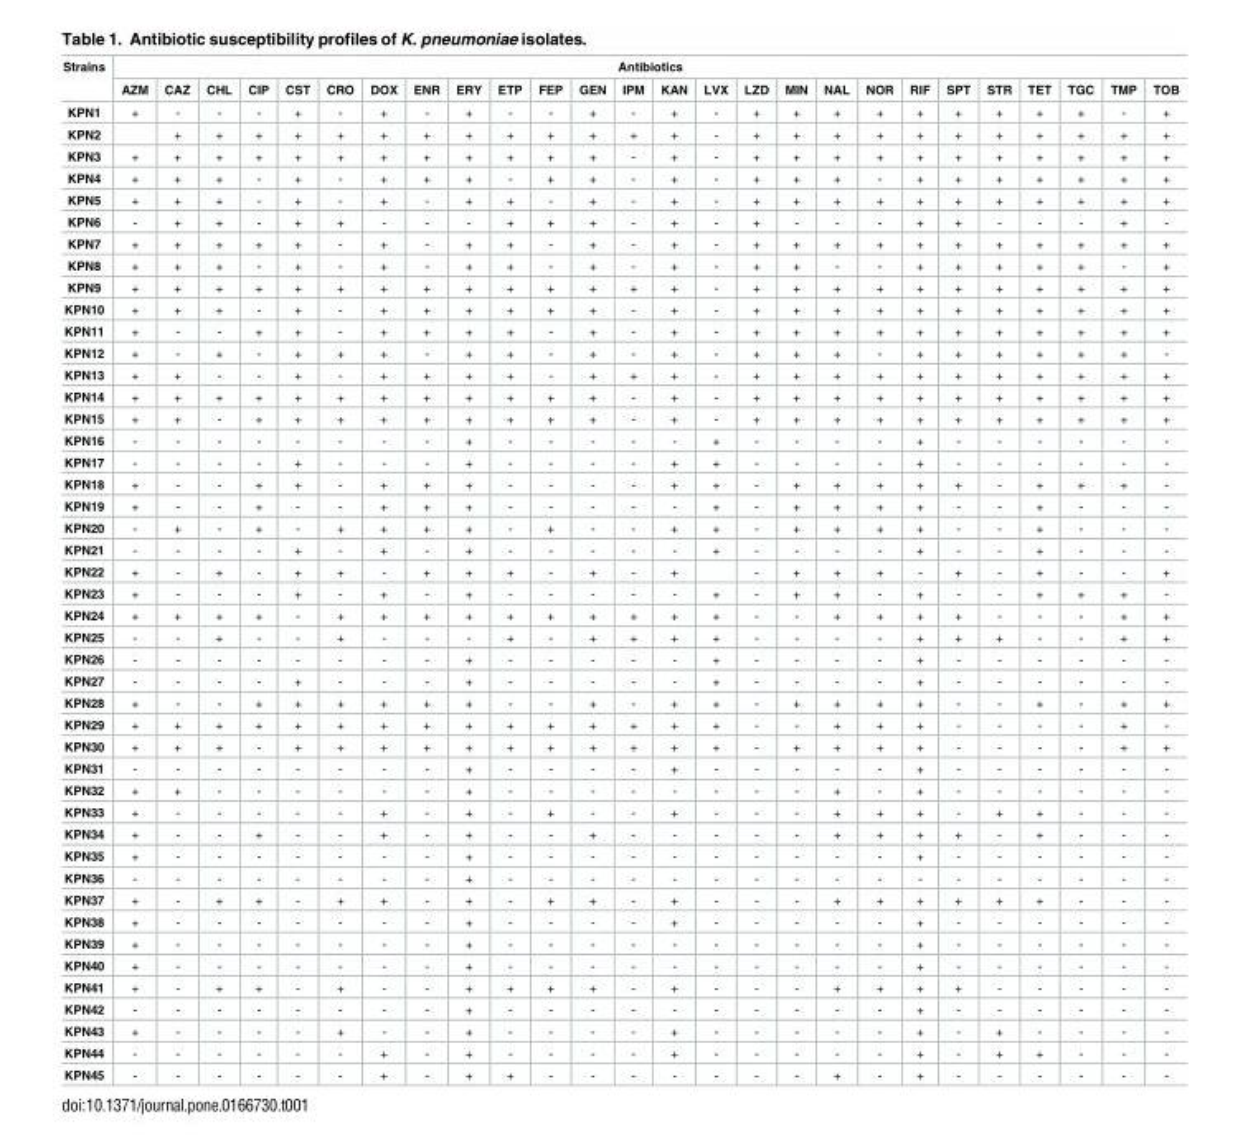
<table><thead><tr><td rowspan="2">Strains</td><td colspan="26">Antibiotics</td></tr><tr><td>AZM</td><td>CAZ</td><td>CHL</td><td>CIP</td><td>CST</td><td>CRO</td><td>DOX</td><td>ENR</td><td>ERY</td><td>ETP</td><td>FEP</td><td>GEN</td><td>IPM</td><td>KAN</td><td>LVX</td><td>LZD</td><td>MIN</td><td>NAL</td><td>NOR</td><td>RIF</td><td>SPT</td><td>STR</td><td>TET</td><td>TGC</td><td>TMP</td><td>TOB</td></tr></thead><tbody><tr><td>KPN1</td><td>+</td><td>-</td><td>-</td><td>-</td><td>+</td><td>-</td><td>+</td><td>-</td><td>+</td><td>-</td><td>-</td><td>+</td><td>-</td><td>+</td><td>-</td><td>+</td><td>+</td><td>+</td><td>+</td><td>+</td><td>+</td><td>+</td><td>+</td><td>+</td><td>-</td><td>+</td></tr><tr><td>KPN2</td><td></td><td>+</td><td>+</td><td>+</td><td>+</td><td>+</td><td>+</td><td>+</td><td>+</td><td>+</td><td>+</td><td>+</td><td>+</td><td>+</td><td>-</td><td>+</td><td>+</td><td>+</td><td>+</td><td>+</td><td>+</td><td>+</td><td>+</td><td>+</td><td>+</td><td>+</td></tr><tr><td>KPN3</td><td>+</td><td>+</td><td>+</td><td>+</td><td>+</td><td>+</td><td>+</td><td>+</td><td>+</td><td>+</td><td>+</td><td>+</td><td>-</td><td>+</td><td>-</td><td>+</td><td>+</td><td>+</td><td>+</td><td>+</td><td>+</td><td>+</td><td>+</td><td>+</td><td>+</td><td>+</td></tr><tr><td>KPN4</td><td>+</td><td>+</td><td>+</td><td>-</td><td>+</td><td>-</td><td>+</td><td>+</td><td>+</td><td>-</td><td>+</td><td>+</td><td>-</td><td>+</td><td>-</td><td>+</td><td>+</td><td>+</td><td>-</td><td>+</td><td>+</td><td>+</td><td>+</td><td>+</td><td>+</td><td>+</td></tr><tr><td>KPN5</td><td>+</td><td>+</td><td>+</td><td>-</td><td>+</td><td>-</td><td>+</td><td>-</td><td>+</td><td>+</td><td>-</td><td>+</td><td>-</td><td>+</td><td>-</td><td>+</td><td>+</td><td>+</td><td>+</td><td>+</td><td>+</td><td>+</td><td>+</td><td>+</td><td>+</td><td>+</td></tr><tr><td>KPN6</td><td>-</td><td>+</td><td>+</td><td>-</td><td>+</td><td>+</td><td>-</td><td>-</td><td>-</td><td>+</td><td>+</td><td>+</td><td>-</td><td>+</td><td>-</td><td>+</td><td>-</td><td>-</td><td>-</td><td>+</td><td>+</td><td>-</td><td>-</td><td>-</td><td>+</td><td>-</td></tr><tr><td>KPN7</td><td>+</td><td>+</td><td>+</td><td>+</td><td>+</td><td>-</td><td>+</td><td>-</td><td>+</td><td>+</td><td>-</td><td>+</td><td>-</td><td>+</td><td>-</td><td>+</td><td>+</td><td>+</td><td>+</td><td>+</td><td>+</td><td>+</td><td>+</td><td>+</td><td>+</td><td>+</td></tr><tr><td>KPN8</td><td>+</td><td>+</td><td>+</td><td>-</td><td>+</td><td>-</td><td>+</td><td>-</td><td>+</td><td>+</td><td>-</td><td>+</td><td>-</td><td>+</td><td>-</td><td>+</td><td>+</td><td>-</td><td>-</td><td>+</td><td>+</td><td>+</td><td>+</td><td>+</td><td>-</td><td>+</td></tr><tr><td>KPN9</td><td>+</td><td>+</td><td>+</td><td>+</td><td>+</td><td>+</td><td>+</td><td>+</td><td>+</td><td>+</td><td>+</td><td>+</td><td>+</td><td>+</td><td>-</td><td>+</td><td>+</td><td>+</td><td>+</td><td>+</td><td>+</td><td>+</td><td>+</td><td>+</td><td>+</td><td>+</td></tr><tr><td>KPN10</td><td>+</td><td>+</td><td>+</td><td>-</td><td>+</td><td>-</td><td>+</td><td>+</td><td>+</td><td>+</td><td>+</td><td>+</td><td>-</td><td>+</td><td>-</td><td>+</td><td>+</td><td>+</td><td>+</td><td>+</td><td>+</td><td>+</td><td>+</td><td>+</td><td>+</td><td>+</td></tr><tr><td>KPN11</td><td>+</td><td>-</td><td>-</td><td>+</td><td>+</td><td>-</td><td>+</td><td>+</td><td>+</td><td>+</td><td>-</td><td>+</td><td>-</td><td>+</td><td>-</td><td>+</td><td>+</td><td>+</td><td>+</td><td>+</td><td>+</td><td>+</td><td>+</td><td>+</td><td>+</td><td>+</td></tr><tr><td>KPN12</td><td>+</td><td>-</td><td>+</td><td>-</td><td>+</td><td>+</td><td>+</td><td>-</td><td>+</td><td>+</td><td>-</td><td>+</td><td>-</td><td>+</td><td>-</td><td>+</td><td>+</td><td>+</td><td>-</td><td>+</td><td>+</td><td>+</td><td>+</td><td>+</td><td>+</td><td>-</td></tr><tr><td>KPN13</td><td>+</td><td>+</td><td>-</td><td>-</td><td>+</td><td>-</td><td>+</td><td>+</td><td>+</td><td>+</td><td>-</td><td>+</td><td>+</td><td>+</td><td>-</td><td>+</td><td>+</td><td>+</td><td>+</td><td>+</td><td>+</td><td>+</td><td>+</td><td>+</td><td>+</td><td>+</td></tr><tr><td>KPN14</td><td>+</td><td>+</td><td>+</td><td>+</td><td>+</td><td>+</td><td>+</td><td>+</td><td>+</td><td>+</td><td>+</td><td>+</td><td>-</td><td>+</td><td>-</td><td>+</td><td>+</td><td>+</td><td>+</td><td>+</td><td>+</td><td>+</td><td>+</td><td>+</td><td>+</td><td>+</td></tr><tr><td>KPN15</td><td>+</td><td>+</td><td>-</td><td>+</td><td>+</td><td>+</td><td>+</td><td>+</td><td>+</td><td>+</td><td>+</td><td>+</td><td>-</td><td>+</td><td>-</td><td>+</td><td>+</td><td>+</td><td>+</td><td>+</td><td>+</td><td>+</td><td>+</td><td>+</td><td>+</td><td>+</td></tr><tr><td>KPN16</td><td>-</td><td>-</td><td>-</td><td>-</td><td>-</td><td>-</td><td>-</td><td>-</td><td>+</td><td>-</td><td>-</td><td>-</td><td>-</td><td>-</td><td>+</td><td>-</td><td>-</td><td>-</td><td>-</td><td>+</td><td>-</td><td>-</td><td>-</td><td>-</td><td>-</td><td>-</td></tr><tr><td>KPN17</td><td>-</td><td>-</td><td>-</td><td>-</td><td>+</td><td>-</td><td>-</td><td>-</td><td>+</td><td>-</td><td>-</td><td>-</td><td>-</td><td>+</td><td>+</td><td>-</td><td>-</td><td>-</td><td>-</td><td>+</td><td>-</td><td>-</td><td>-</td><td>-</td><td>-</td><td>-</td></tr><tr><td>KPN18</td><td>+</td><td>-</td><td>-</td><td>+</td><td>+</td><td>-</td><td>+</td><td>+</td><td>+</td><td>-</td><td>-</td><td>-</td><td>-</td><td>+</td><td>+</td><td>-</td><td>+</td><td>+</td><td>+</td><td>+</td><td>+</td><td>-</td><td>+</td><td>+</td><td>+</td><td>-</td></tr><tr><td>KPN19</td><td>+</td><td>-</td><td>-</td><td>+</td><td>-</td><td>-</td><td>+</td><td>+</td><td>+</td><td>-</td><td>-</td><td>-</td><td>-</td><td>-</td><td>+</td><td>-</td><td>+</td><td>+</td><td>+</td><td>+</td><td>-</td><td>-</td><td>+</td><td>-</td><td>-</td><td>-</td></tr><tr><td>KPN20</td><td>-</td><td>+</td><td>-</td><td>+</td><td>-</td><td>+</td><td>+</td><td>+</td><td>+</td><td>-</td><td>+</td><td>-</td><td>-</td><td>+</td><td>+</td><td>-</td><td>+</td><td>+</td><td>+</td><td>+</td><td>-</td><td>-</td><td>+</td><td>-</td><td>-</td><td>-</td></tr><tr><td>KPN21</td><td>-</td><td>-</td><td>-</td><td>-</td><td>+</td><td>-</td><td>+</td><td>-</td><td>+</td><td>-</td><td>-</td><td>-</td><td>-</td><td>-</td><td>+</td><td>-</td><td>-</td><td>-</td><td>-</td><td>+</td><td>-</td><td>-</td><td>+</td><td>-</td><td>-</td><td>-</td></tr><tr><td>KPN22</td><td>+</td><td>-</td><td>+</td><td>-</td><td>+</td><td>+</td><td>-</td><td>+</td><td>+</td><td>+</td><td>-</td><td>+</td><td>-</td><td>+</td><td></td><td>-</td><td>+</td><td>+</td><td>+</td><td>-</td><td>+</td><td>-</td><td>+</td><td>-</td><td>-</td><td>+</td></tr><tr><td>KPN23</td><td>+</td><td>-</td><td>-</td><td>-</td><td>+</td><td>-</td><td>+</td><td>-</td><td>+</td><td>-</td><td>-</td><td>-</td><td>-</td><td>-</td><td>+</td><td>-</td><td>+</td><td>+</td><td>-</td><td>+</td><td>-</td><td>-</td><td>+</td><td>+</td><td>+</td><td>-</td></tr><tr><td>KPN24</td><td>+</td><td>+</td><td>+</td><td>+</td><td>-</td><td>+</td><td>+</td><td>+</td><td>+</td><td>+</td><td>+</td><td>+</td><td>+</td><td>+</td><td>+</td><td>-</td><td>-</td><td>+</td><td>+</td><td>+</td><td>+</td><td>-</td><td>-</td><td>-</td><td>+</td><td>+</td></tr><tr><td>KPN25</td><td>-</td><td>-</td><td>+</td><td>-</td><td>-</td><td>+</td><td>-</td><td>-</td><td>-</td><td>+</td><td>-</td><td>+</td><td>+</td><td>+</td><td>+</td><td>-</td><td>-</td><td>-</td><td>-</td><td>+</td><td>+</td><td>+</td><td>-</td><td>-</td><td>+</td><td>+</td></tr><tr><td>KPN26</td><td>-</td><td>-</td><td>-</td><td>-</td><td>-</td><td>-</td><td>-</td><td>-</td><td>+</td><td>-</td><td>-</td><td>-</td><td>-</td><td>-</td><td>+</td><td>-</td><td>-</td><td>-</td><td>-</td><td>+</td><td>-</td><td>-</td><td>-</td><td>-</td><td>-</td><td>-</td></tr><tr><td>KPN27</td><td>-</td><td>-</td><td>-</td><td>-</td><td>+</td><td>-</td><td>-</td><td>-</td><td>+</td><td>-</td><td>-</td><td>-</td><td>-</td><td>-</td><td>+</td><td>-</td><td>-</td><td>-</td><td>-</td><td>+</td><td>-</td><td>-</td><td>-</td><td>-</td><td>-</td><td>-</td></tr><tr><td>KPN28</td><td>+</td><td>-</td><td>-</td><td>+</td><td>+</td><td>+</td><td>+</td><td>+</td><td>+</td><td>-</td><td>-</td><td>+</td><td>-</td><td>+</td><td>+</td><td>-</td><td>+</td><td>+</td><td>+</td><td>+</td><td>-</td><td>-</td><td>+</td><td>-</td><td>+</td><td>+</td></tr><tr><td>KPN29</td><td>+</td><td>+</td><td>+</td><td>+</td><td>+</td><td>+</td><td>+</td><td>+</td><td>+</td><td>+</td><td>+</td><td>+</td><td>+</td><td>+</td><td>+</td><td>-</td><td>-</td><td>+</td><td>+</td><td>+</td><td>-</td><td>-</td><td>-</td><td>-</td><td>+</td><td>-</td></tr><tr><td>KPN30</td><td>+</td><td>+</td><td>+</td><td>-</td><td>+</td><td>+</td><td>+</td><td>+</td><td>+</td><td>+</td><td>+</td><td>+</td><td>+</td><td>+</td><td>+</td><td>-</td><td>+</td><td>+</td><td>+</td><td>+</td><td>-</td><td>-</td><td>-</td><td>-</td><td>+</td><td>+</td></tr><tr><td>KPN31</td><td>-</td><td>-</td><td>-</td><td>-</td><td>-</td><td>-</td><td>-</td><td>-</td><td>+</td><td>-</td><td>-</td><td>-</td><td>-</td><td>+</td><td>-</td><td>-</td><td>-</td><td>-</td><td>-</td><td>+</td><td>-</td><td>-</td><td>-</td><td>-</td><td>-</td><td>-</td></tr><tr><td>KPN32</td><td>+</td><td>+</td><td>-</td><td>-</td><td>-</td><td>-</td><td>-</td><td>-</td><td>+</td><td>-</td><td>-</td><td>-</td><td>-</td><td>-</td><td>-</td><td>-</td><td>-</td><td>+</td><td>-</td><td>+</td><td>-</td><td>-</td><td>-</td><td>-</td><td>-</td><td>-</td></tr><tr><td>KPN33</td><td>+</td><td>-</td><td>-</td><td>-</td><td>-</td><td>-</td><td>+</td><td>-</td><td>+</td><td>-</td><td>+</td><td>-</td><td>-</td><td>+</td><td>-</td><td>-</td><td>-</td><td>+</td><td>+</td><td>+</td><td>-</td><td>+</td><td>+</td><td>-</td><td>-</td><td>-</td></tr><tr><td>KPN34</td><td>+</td><td>-</td><td>-</td><td>+</td><td>-</td><td>-</td><td>+</td><td>-</td><td>+</td><td>-</td><td>-</td><td>+</td><td>-</td><td>-</td><td>-</td><td>-</td><td>-</td><td>+</td><td>+</td><td>+</td><td>+</td><td>-</td><td>+</td><td>-</td><td>-</td><td>-</td></tr><tr><td>KPN35</td><td>+</td><td>-</td><td>-</td><td>-</td><td>-</td><td>-</td><td>-</td><td>-</td><td>+</td><td>-</td><td>-</td><td>-</td><td>-</td><td>-</td><td>-</td><td>-</td><td>-</td><td>-</td><td>-</td><td>+</td><td>-</td><td>-</td><td>-</td><td>-</td><td>-</td><td>-</td></tr><tr><td>KPN36</td><td>-</td><td>-</td><td>-</td><td>-</td><td>-</td><td>-</td><td>-</td><td>-</td><td>+</td><td>-</td><td>-</td><td>-</td><td>-</td><td>-</td><td>-</td><td>-</td><td>-</td><td>-</td><td>-</td><td>-</td><td>-</td><td>-</td><td>-</td><td>-</td><td>-</td><td>-</td></tr><tr><td>KPN37</td><td>+</td><td>-</td><td>+</td><td>+</td><td>-</td><td>+</td><td>+</td><td>-</td><td>+</td><td>-</td><td>+</td><td>+</td><td>-</td><td>+</td><td>-</td><td>-</td><td>-</td><td>+</td><td>+</td><td>+</td><td>+</td><td>+</td><td>+</td><td>-</td><td>-</td><td>-</td></tr><tr><td>KPN38</td><td>+</td><td>-</td><td>-</td><td>-</td><td>-</td><td>-</td><td>-</td><td>-</td><td>+</td><td>-</td><td>-</td><td>-</td><td>-</td><td>+</td><td>-</td><td>-</td><td>-</td><td>-</td><td>-</td><td>+</td><td>-</td><td>-</td><td>-</td><td>-</td><td>-</td><td>-</td></tr><tr><td>KPN39</td><td>+</td><td>-</td><td>-</td><td>-</td><td>-</td><td>-</td><td>-</td><td>-</td><td>+</td><td>-</td><td>-</td><td>-</td><td>-</td><td>-</td><td>-</td><td>-</td><td>-</td><td>-</td><td>-</td><td>+</td><td>-</td><td>-</td><td>-</td><td>-</td><td>-</td><td>-</td></tr><tr><td>KPN40</td><td>+</td><td>-</td><td>-</td><td>-</td><td>-</td><td>-</td><td>-</td><td>-</td><td>+</td><td>-</td><td>-</td><td>-</td><td>-</td><td>-</td><td>-</td><td>-</td><td>-</td><td>-</td><td>-</td><td>+</td><td>-</td><td>-</td><td>-</td><td>-</td><td>-</td><td>-</td></tr><tr><td>KPN41</td><td>+</td><td>-</td><td>+</td><td>+</td><td>-</td><td>+</td><td>-</td><td>-</td><td>+</td><td>+</td><td>+</td><td>+</td><td>-</td><td>+</td><td>-</td><td>-</td><td>-</td><td>+</td><td>+</td><td>+</td><td>+</td><td>-</td><td>-</td><td>-</td><td>-</td><td>-</td></tr><tr><td>KPN42</td><td>-</td><td>-</td><td>-</td><td>-</td><td>-</td><td>-</td><td>-</td><td>-</td><td>+</td><td>-</td><td>-</td><td>-</td><td>-</td><td>-</td><td>-</td><td>-</td><td>-</td><td>-</td><td>-</td><td>+</td><td>-</td><td>-</td><td>-</td><td>-</td><td>-</td><td>-</td></tr><tr><td>KPN43</td><td>+</td><td>-</td><td>-</td><td>-</td><td>-</td><td>+</td><td>-</td><td>-</td><td>+</td><td>-</td><td>-</td><td>-</td><td>-</td><td>+</td><td>-</td><td>-</td><td>-</td><td>-</td><td>-</td><td>+</td><td>-</td><td>+</td><td>-</td><td>-</td><td>-</td><td>-</td></tr><tr><td>KPN44</td><td>-</td><td>-</td><td>-</td><td>-</td><td>-</td><td>-</td><td>+</td><td>-</td><td>+</td><td>-</td><td>-</td><td>-</td><td>-</td><td>+</td><td>-</td><td>-</td><td>-</td><td>-</td><td>-</td><td>+</td><td>-</td><td>+</td><td>+</td><td>-</td><td>-</td><td>-</td></tr><tr><td>KPN45</td><td>-</td><td>-</td><td>-</td><td>-</td><td>-</td><td>-</td><td>+</td><td>-</td><td>+</td><td>+</td><td>-</td><td>-</td><td>-</td><td>-</td><td>-</td><td>-</td><td>-</td><td>+</td><td>-</td><td>+</td><td>-</td><td>-</td><td>-</td><td>-</td><td>-</td><td>-</td></tr></tbody></table>